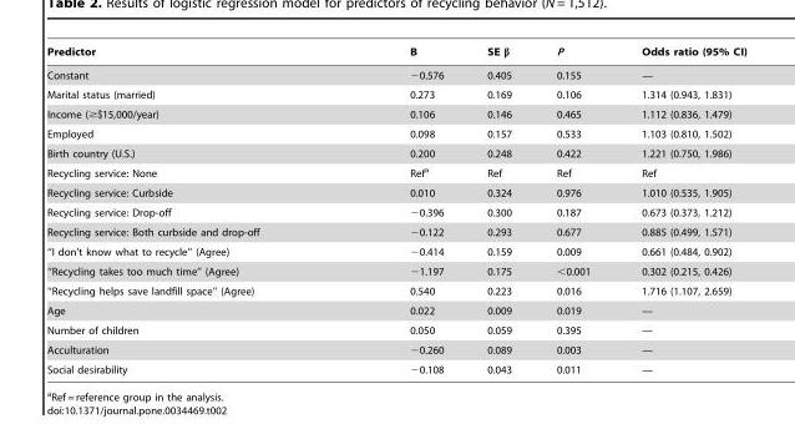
<table><thead><tr><td>Predictor</td><td>B</td><td>SE β</td><td>P</td><td>Odds ratio (95% CI)</td></tr></thead><tbody><tr><td>Constant</td><td>−0.576</td><td>0.405</td><td>0.155</td><td>—</td></tr><tr><td>Marital status (married)</td><td>0.273</td><td>0.169</td><td>0.106</td><td>1.314 (0.943, 1.831)</td></tr><tr><td>Income (≥$15,000/year)</td><td>0.106</td><td>0.146</td><td>0.465</td><td>1.112 (0.836, 1.479)</td></tr><tr><td>Employed</td><td>0.098</td><td>0.157</td><td>0.533</td><td>1.103 (0.810, 1.502)</td></tr><tr><td>Birth country (U.S.)</td><td>0.200</td><td>0.248</td><td>0.422</td><td>1.221 (0.750, 1.986)</td></tr><tr><td>Recycling service: None</td><td>Ref<sup>a</sup></td><td>Ref</td><td>Ref</td><td>Ref</td></tr><tr><td>Recycling service: Curbside</td><td>0.010</td><td>0.324</td><td>0.976</td><td>1.010 (0.535, 1.905)</td></tr><tr><td>Recycling service: Drop-off</td><td>−0.396</td><td>0.300</td><td>0.187</td><td>0.673 (0.373, 1.212)</td></tr><tr><td>Recycling service: Both curbside and drop-off</td><td>−0.122</td><td>0.293</td><td>0.677</td><td>0.885 (0.499, 1.571)</td></tr><tr><td>‘‘I don’t know what to recycle’’ (Agree)</td><td>−0.414</td><td>0.159</td><td>0.009</td><td>0.661 (0.484, 0.902)</td></tr><tr><td>‘‘Recycling takes too much time’’ (Agree)</td><td>−1.197</td><td>0.175</td><td>&lt;0.001</td><td>0.302 (0.215, 0.426)</td></tr><tr><td>‘‘Recycling helps save landfill space’’ (Agree)</td><td>0.540</td><td>0.223</td><td>0.016</td><td>1.716 (1.107, 2.659)</td></tr><tr><td>Age</td><td>0.022</td><td>0.009</td><td>0.019</td><td>—</td></tr><tr><td>Number of children</td><td>0.050</td><td>0.059</td><td>0.395</td><td>—</td></tr><tr><td>Acculturation</td><td>−0.260</td><td>0.089</td><td>0.003</td><td>—</td></tr><tr><td>Social desirability</td><td>−0.108</td><td>0.043</td><td>0.011</td><td>—</td></tr></tbody></table>